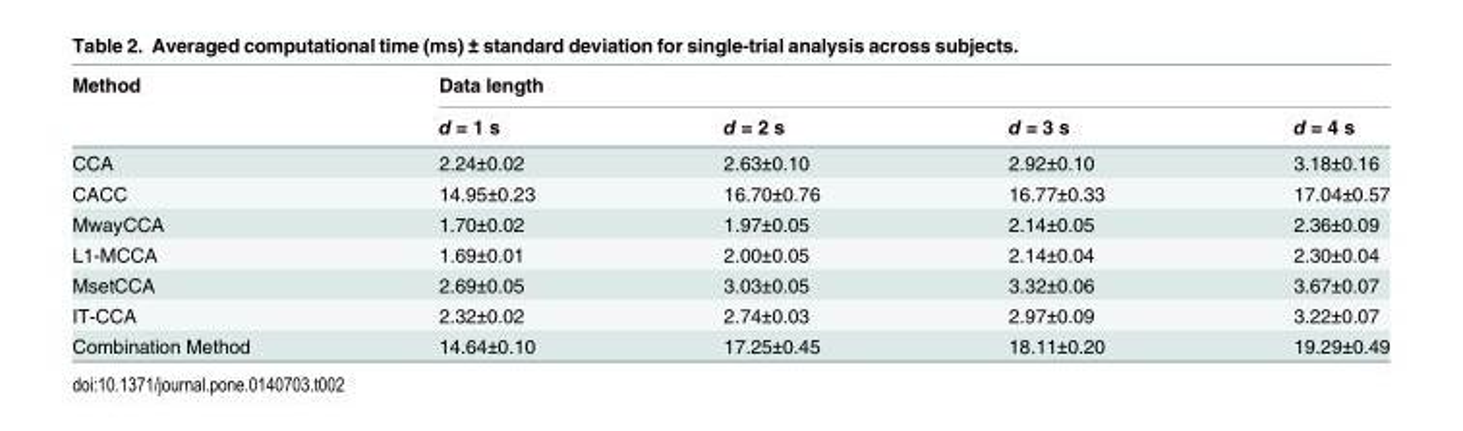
<table><thead><tr><td rowspan="2">Method</td><td colspan="4">Data length</td></tr><tr><td>d = 1 s</td><td>d = 2 s</td><td>d = 3 s</td><td>d = 4 s</td></tr></thead><tbody><tr><td>CCA</td><td>2.24±0.02</td><td>2.63±0.10</td><td>2.92±0.10</td><td>3.18±0.16</td></tr><tr><td>CACC</td><td>14.95±0.23</td><td>16.70±0.76</td><td>16.77±0.33</td><td>17.04±0.57</td></tr><tr><td>MwayCCA</td><td>1.70±0.02</td><td>1.97±0.05</td><td>2.14±0.05</td><td>2.36±0.09</td></tr><tr><td>L1-MCCA</td><td>1.69±0.01</td><td>2.00±0.05</td><td>2.14±0.04</td><td>2.30±0.04</td></tr><tr><td>MsetCCA</td><td>2.69±0.05</td><td>3.03±0.05</td><td>3.32±0.06</td><td>3.67±0.07</td></tr><tr><td>IT-CCA</td><td>2.32±0.02</td><td>2.74±0.03</td><td>2.97±0.09</td><td>3.22±0.07</td></tr><tr><td>Combination Method</td><td>14.64±0.10</td><td>17.25±0.45</td><td>18.11±0.20</td><td>19.29±0.49</td></tr></tbody></table>